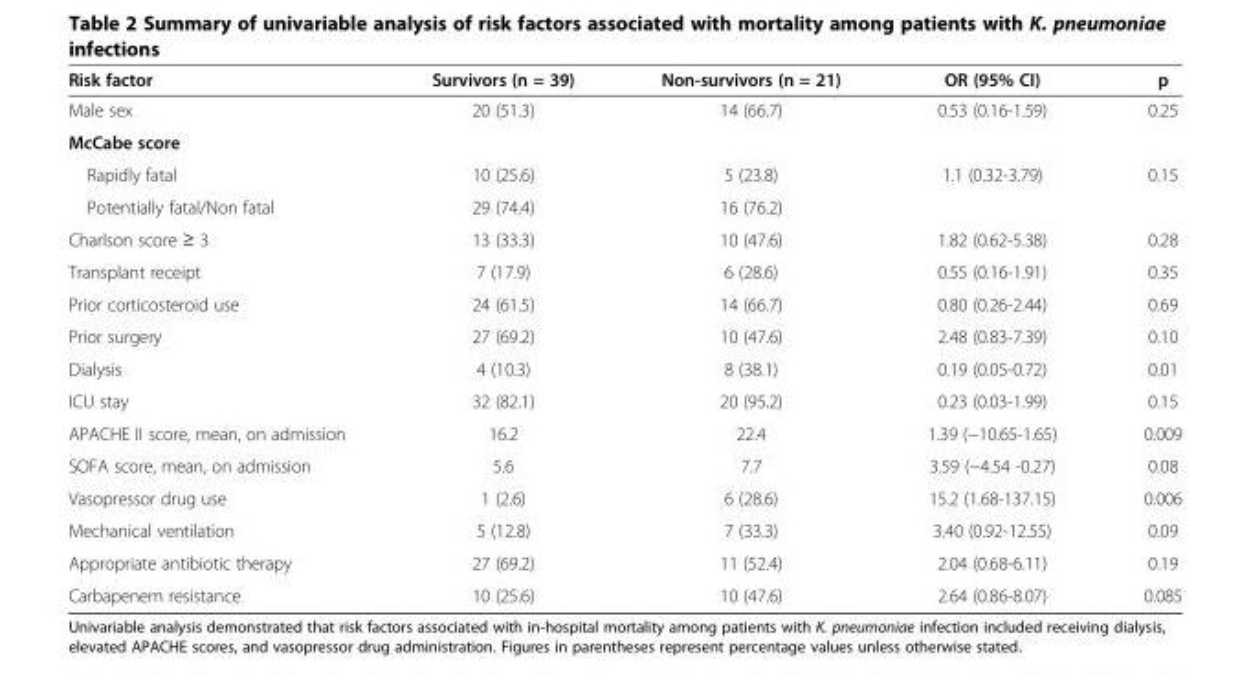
<table><thead><tr><td>Risk factor</td><td>Survivors (n = 39)</td><td>Non-survivors (n = 21)</td><td>OR (95% CI)</td><td>p</td></tr></thead><tbody><tr><td>Male sex</td><td>20 (51.3)</td><td>14 (66.7)</td><td>0.53 (0.16-1.59)</td><td>0.25</td></tr><tr><td colspan="5">McCabe score</td></tr><tr><td>Rapidly fatal</td><td>10 (25.6)</td><td>5 (23.8)</td><td>1.1 (0.32-3.79)</td><td>0.15</td></tr><tr><td>Potentially fatal/Non fatal</td><td>29 (74.4)</td><td>16 (76.2)</td><td></td><td></td></tr><tr><td>Charlson score ≥ 3</td><td>13 (33.3)</td><td>10 (47.6)</td><td>1.82 (0.62-5.38)</td><td>0.28</td></tr><tr><td>Transplant receipt</td><td>7 (17.9)</td><td>6 (28.6)</td><td>0.55 (0.16-1.91)</td><td>0.35</td></tr><tr><td>Prior corticosteroid use</td><td>24 (61.5)</td><td>14 (66.7)</td><td>0.80 (0.26-2.44)</td><td>0.69</td></tr><tr><td>Prior surgery</td><td>27 (69.2)</td><td>10 (47.6)</td><td>2.48 (0.83-7.39)</td><td>0.10</td></tr><tr><td>Dialysis</td><td>4 (10.3)</td><td>8 (38.1)</td><td>0.19 (0.05-0.72)</td><td>0.01</td></tr><tr><td>ICU stay</td><td>32 (82.1)</td><td>20 (95.2)</td><td>0.23 (0.03-1.99)</td><td>0.15</td></tr><tr><td>APACHE II score, mean, on admission</td><td>16.2</td><td>22.4</td><td>1.39 (−10.65-1.65)</td><td>0.009</td></tr><tr><td>SOFA score, mean, on admission</td><td>5.6</td><td>7.7</td><td>3.59 (−4.54 -0.27)</td><td>0.08</td></tr><tr><td>Vasopressor drug use</td><td>1 (2.6)</td><td>6 (28.6)</td><td>15.2 (1.68-137.15)</td><td>0.006</td></tr><tr><td>Mechanical ventilation</td><td>5 (12.8)</td><td>7 (33.3)</td><td>3.40 (0.92-12.55)</td><td>0.09</td></tr><tr><td>Appropriate antibiotic therapy</td><td>27 (69.2)</td><td>11 (52.4)</td><td>2.04 (0.68-6.11)</td><td>0.19</td></tr><tr><td>Carbapenem resistance</td><td>10 (25.6)</td><td>10 (47.6)</td><td>2.64 (0.86-8.07)</td><td>0.085</td></tr></tbody></table>